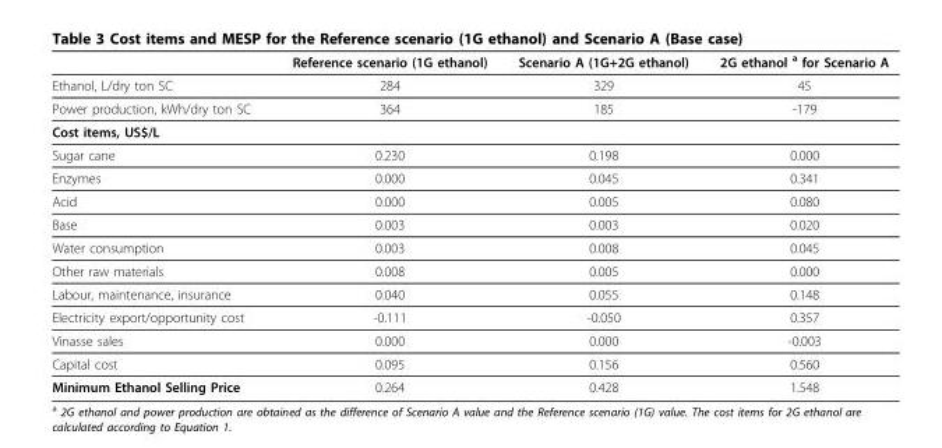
<table><thead><tr><td></td><td>Reference scenario (1G ethanol)</td><td>Scenario A (1G+2G ethanol)</td><td>2G ethanol <sup>a</sup> for Scenario A</td></tr></thead><tbody><tr><td>Ethanol, L/dry ton SC</td><td>284</td><td>329</td><td>45</td></tr><tr><td>Power production, kWh/dry ton SC</td><td>364</td><td>185</td><td>-179</td></tr><tr><td colspan="4">Cost items, US$/L</td></tr><tr><td>Sugar cane</td><td>0.230</td><td>0.198</td><td>0.000</td></tr><tr><td>Enzymes</td><td>0.000</td><td>0.045</td><td>0.341</td></tr><tr><td>Acid</td><td>0.000</td><td>0.005</td><td>0.080</td></tr><tr><td>Base</td><td>0.003</td><td>0.003</td><td>0.020</td></tr><tr><td>Water consumption</td><td>0.003</td><td>0.008</td><td>0.045</td></tr><tr><td>Other raw materials</td><td>0.008</td><td>0.005</td><td>0.000</td></tr><tr><td>Labour, maintenance, insurance</td><td>0.040</td><td>0.055</td><td>0.148</td></tr><tr><td>Electricity export/opportunity cost</td><td>-0.111</td><td>-0.050</td><td>0.357</td></tr><tr><td>Vinasse sales</td><td>0.000</td><td>0.000</td><td>-0.003</td></tr><tr><td>Capital cost</td><td>0.095</td><td>0.156</td><td>0.560</td></tr><tr><td>Minimum Ethanol Selling Price</td><td>0.264</td><td>0.428</td><td>1.548</td></tr></tbody></table>